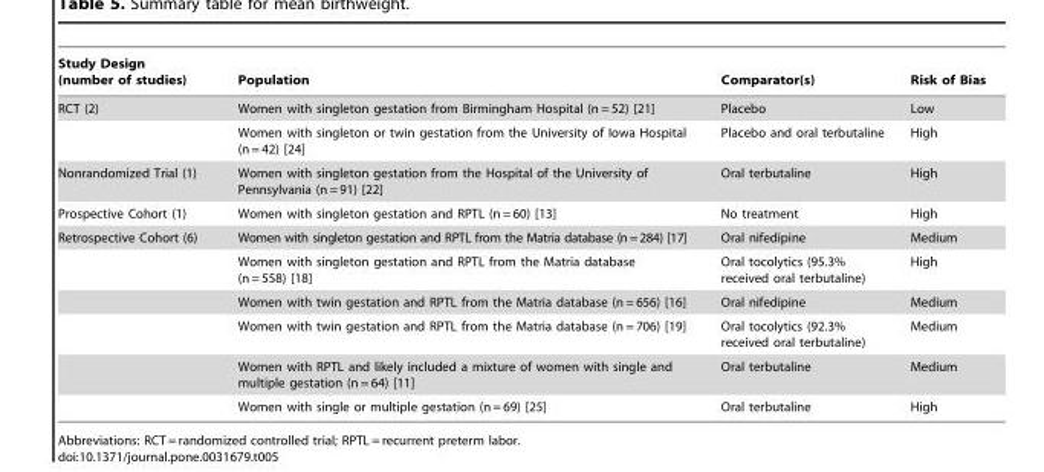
<table><thead><tr><td>Study Design (number of studies)</td><td>Population</td><td>Comparator(s)</td><td>Risk of Bias</td></tr></thead><tbody><tr><td rowspan="2">RCT (2)</td><td>Women with singleton gestation from Birmingham Hospital (n = 52) [21]</td><td>Placebo</td><td>Low</td></tr><tr><td>Women with singleton or twin gestation from the University of Iowa Hospital (n = 42) [24]</td><td>Placebo and oral terbutaline</td><td>High</td></tr><tr><td>Nonrandomized Trial (1)</td><td>Women with singleton gestation from the Hospital of the University of Pennsylvania (n = 91) [22]</td><td>Oral terbutaline</td><td>High</td></tr><tr><td>Prospective Cohort (1)</td><td>Women with singleton gestation and RPTL (n = 60) [13]</td><td>No treatment</td><td>High</td></tr><tr><td rowspan="6">Retrospective Cohort (6)</td><td>Women with singleton gestation and RPTL from the Matria database (n=284) [17]</td><td>Oral nifedipine</td><td>Medium</td></tr><tr><td>Women with singleton gestation and RPTL from the Matria database (n = 558) [18]</td><td>Oral tocolytics (95.3% received oral terbutaline)</td><td>High</td></tr><tr><td>Women with twin gestation and RPTL from the Matria database (n = 656) [16]</td><td>Oral nifedipine</td><td>Medium</td></tr><tr><td>Women with twin gestation and RPTL from the Matria database (n = 706) [19]</td><td>Oral tocolytics (92.3% received oral terbutaline)</td><td>Medium</td></tr><tr><td>Women with RPTL and likely included a mixture of women with single and multiple gestation (n = 64) [11]</td><td>Oral terbutaline</td><td>Medium</td></tr><tr><td>Women with single or multiple gestation (n = 69) [25]</td><td>Oral terbutaline</td><td>High</td></tr></tbody></table>